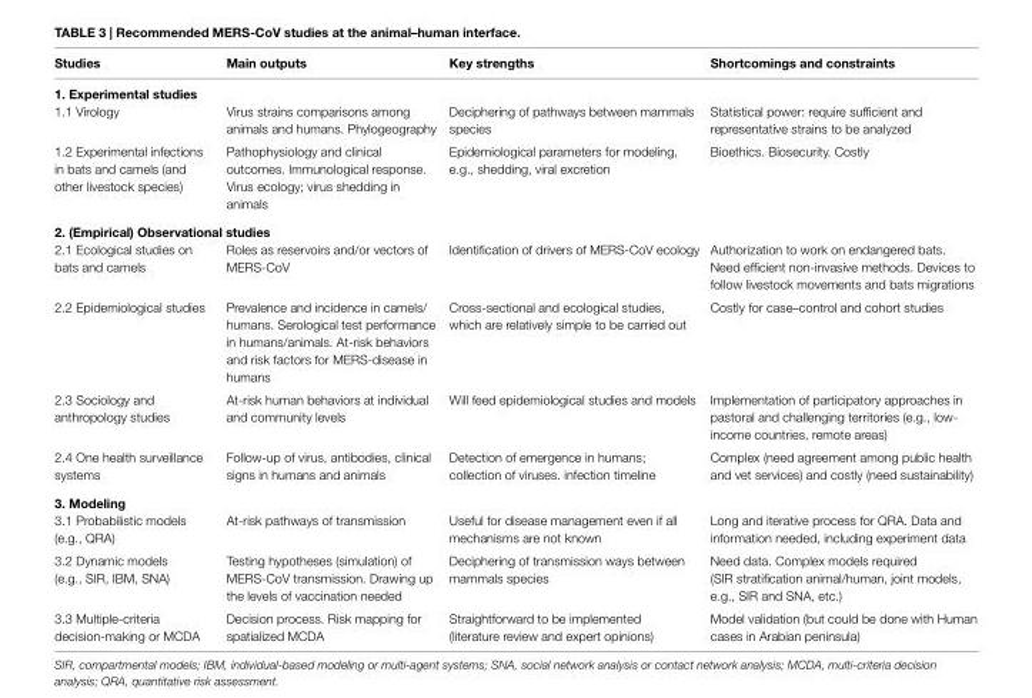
<table><thead><tr><td>studies</td><td>Main outputs</td><td>Key strengths</td><td>shortcomings and constraints</td></tr></thead><tbody><tr><td colspan="4">1. experimental studies</td></tr><tr><td>1.1 Virology</td><td>Virus strains comparisons among animals and humans. Phylogeography</td><td>Deciphering of pathways between mammals species</td><td>Statistical power: require sufficient and representative strains to be analyzed</td></tr><tr><td>1.2 Experimental infections in bats and camels (and other livestock species)</td><td>Pathophysiology and clinical outcomes. Immunological response. Virus ecology; virus shedding in animals</td><td>Epidemiological parameters for modeling, e.g., shedding, viral excretion</td><td>Bioethics. Biosecurity. Costly</td></tr><tr><td colspan="4">2. (empirical) Observational studies</td></tr><tr><td>2.1 Ecological studies on bats and camels</td><td>Roles as reservoirs and/or vectors of MERS-CoV</td><td>Identification of drivers of MERS-CoV ecology</td><td>Authorization to work on endangered bats. Need efficient non-invasive methods. Devices to follow livestock movements and bats migrations</td></tr><tr><td>2.2 Epidemiological studies</td><td>Prevalence and incidence in camels/ humans. Serological test performance in humans/animals. At-risk behaviors and risk factors for MERS-disease in humans</td><td>Cross-sectional and ecological studies, which are relatively simple to be carried out</td><td>Costly for case–control and cohort studies</td></tr><tr><td>2.3 Sociology and anthropology studies</td><td>At-risk human behaviors at individual and community levels</td><td>Will feed epidemiological studies and models</td><td>Implementation of participatory approaches in pastoral and challenging territories (e.g., low- income countries, remote areas)</td></tr><tr><td>2.4 One health surveillance systems</td><td>Follow-up of virus, antibodies, clinical signs in humans and animals</td><td>Detection of emergence in humans; collection of viruses. infection timeline</td><td>Complex (need agreement among public health and vet services) and costly (need sustainability)</td></tr><tr><td colspan="4">3. Modeling</td></tr><tr><td>3.1 Probabilistic models (e.g., QRA)</td><td>At-risk pathways of transmission</td><td>Useful for disease management even if all mechanisms are not known</td><td>Long and iterative process for QRA. Data and information needed, including experiment data</td></tr><tr><td>3.2 Dynamic models (e.g., SIR, IBM, SNA)</td><td>Testing hypotheses (simulation) of MERS-CoV transmission. Drawing up the levels of vaccination needed</td><td>Deciphering of transmission ways between mammals species</td><td>Need data. Complex models required (SIR stratification animal/human, joint models, e.g., SIR and SNA, etc.)</td></tr><tr><td>3.3 Multiple-criteria decision-making or MCDA</td><td>Decision process. Risk mapping for spatialized MCDA</td><td>Straightforward to be implemented (literature review and expert opinions)</td><td>Model validation (but could be done with Human cases in Arabian peninsula)</td></tr></tbody></table>